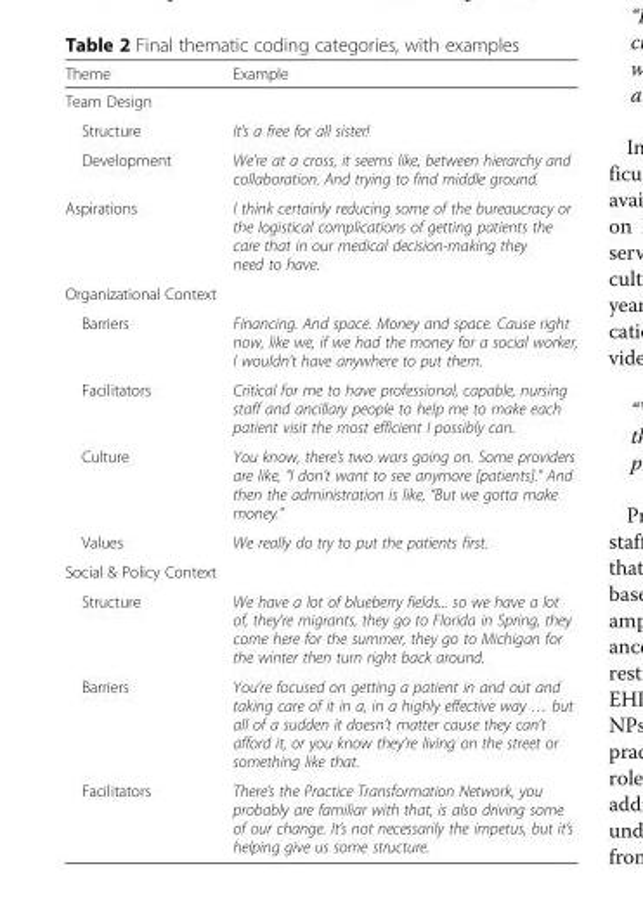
<table><thead><tr><td>Theme</td><td>Example</td></tr></thead><tbody><tr><td colspan="2">Team Design</td></tr><tr><td>Structure</td><td>It’s a free for all sister!</td></tr><tr><td>Development</td><td>We’re at a cross, it seems like, between hierarchy and collaboration. And trying to find middle ground.</td></tr><tr><td>Aspirations</td><td>I think certainly reducing some of the bureaucracy or the logistical complications of getting patients the care that in our medical decision-making they need to have.</td></tr><tr><td colspan="2">Organizational Context</td></tr><tr><td>Barriers</td><td>Financing. And space. Money and space. Cause right now, like we, if we had the money for a social worker, I wouldn’t have anywhere to put them.</td></tr><tr><td>Facilitators</td><td>Critical for me to have professional, capable, nursing staff and ancillary people to help me to make each patient visit the most efficient I possibly can.</td></tr><tr><td>Culture</td><td>You know, there’s two wars going on. Some providers are like, “I don’t want to see anymore [patients].” And then the administration is like, “But we gotta make money.”</td></tr><tr><td>Values</td><td>We really do try to put the patients first.</td></tr><tr><td colspan="2">Social &amp; Policy Context</td></tr><tr><td>Structure</td><td>We have a lot of blueberry fields... so we have a lot of, they’re migrants, they go to Florida in Spring, they come here for the summer, they go to Michigan for the winter then turn right back around.</td></tr><tr><td>Barriers</td><td>You’re focused on getting a patient in and out and taking care of it in a, in a highly effective way … but all of a sudden it doesn’t matter cause they can’t afford it, or you know they’re living on the street or something like that.</td></tr><tr><td>Facilitators</td><td>There’s the Practice Transformation Network, you probably are familiar with that, is also driving some of our change. It’s not necessarily the impetus, but it’s helping give us some structure.</td></tr></tbody></table>